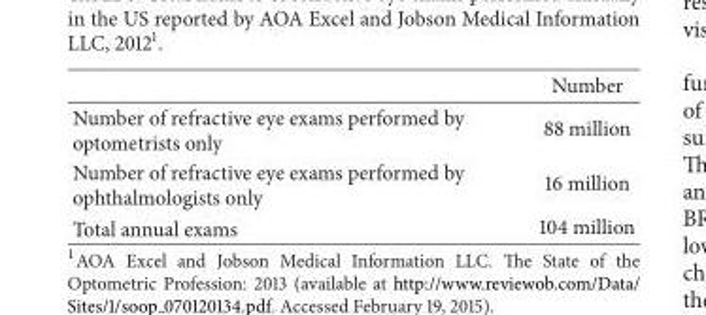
<table><thead><tr><td></td><td>Number</td></tr></thead><tbody><tr><td>Number of refractive eye exams performed by optometrists only</td><td>88 million</td></tr><tr><td>Number of refractive eye exams performed by ophthalmologists only</td><td>16 million</td></tr><tr><td>Total annual exams</td><td>104 million</td></tr></tbody></table>